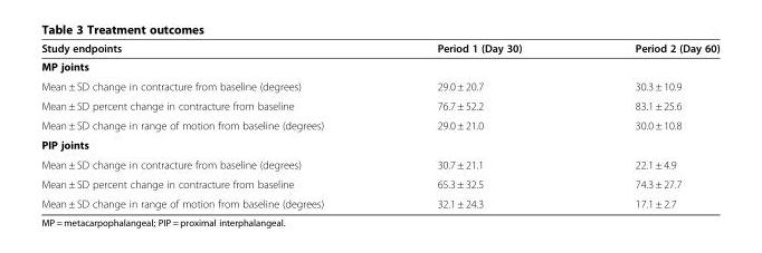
<table><thead><tr><td>Study endpoints</td><td>Period 1 (Day 30)</td><td>Period 2 (Day 60)</td></tr></thead><tbody><tr><td colspan="3">MP joints</td></tr><tr><td>Mean ± SD change in contracture from baseline (degrees)</td><td>29.0 ± 20.7</td><td>30.3 ± 10.9</td></tr><tr><td>Mean ± SD percent change in contracture from baseline</td><td>76.7 ± 52.2</td><td>83.1 ± 25.6</td></tr><tr><td>Mean ± SD change in range of motion from baseline (degrees)</td><td>29.0 ± 21.0</td><td>30.0 ± 10.8</td></tr><tr><td colspan="3">PIP joints</td></tr><tr><td>Mean ± SD change in contracture from baseline (degrees)</td><td>30.7 ± 21.1</td><td>22.1 ± 4.9</td></tr><tr><td>Mean ± SD percent change in contracture from baseline</td><td>65.3 ± 32.5</td><td>74.3 ± 27.7</td></tr><tr><td>Mean ± SD change in range of motion from baseline (degrees)</td><td>32.1 ± 24.3</td><td>17.1 ± 2.7</td></tr></tbody></table>